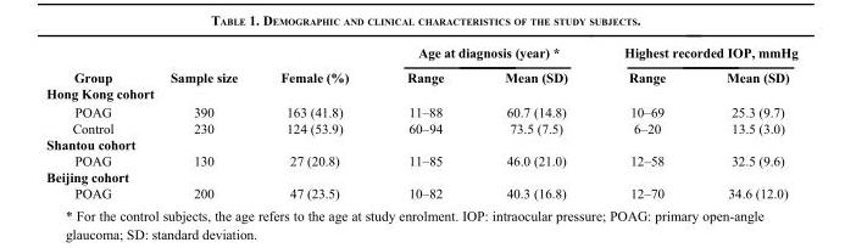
<table><thead><tr><td rowspan="2">Group</td><td rowspan="2">Sample size</td><td rowspan="2">Female (%)</td><td colspan="2">Age at diagnosis (year) *</td><td colspan="2">Highest recorded IOP, mmHg</td></tr><tr><td>Range</td><td>Mean (SD)</td><td>Range</td><td>Mean (SD)</td></tr></thead><tbody><tr><td colspan="7">Hong Kong cohort</td></tr><tr><td>POAG</td><td>390</td><td>163 (41.8)</td><td>11–88</td><td>60.7 (14.8)</td><td>10–69</td><td>25.3 (9.7)</td></tr><tr><td>Control</td><td>230</td><td>124 (53.9)</td><td>60–94</td><td>73.5 (7.5)</td><td>6–20</td><td>13.5 (3.0)</td></tr><tr><td colspan="7">Shantou cohort</td></tr><tr><td>POAG</td><td>130</td><td>27 (20.8)</td><td>11–85</td><td>46.0 (21.0)</td><td>12–58</td><td>32.5 (9.6)</td></tr><tr><td colspan="7">Beijing cohort</td></tr><tr><td>POAG</td><td>200</td><td>47 (23.5)</td><td>10–82</td><td>40.3 (16.8)</td><td>12–70</td><td>34.6 (12.0)</td></tr></tbody></table>